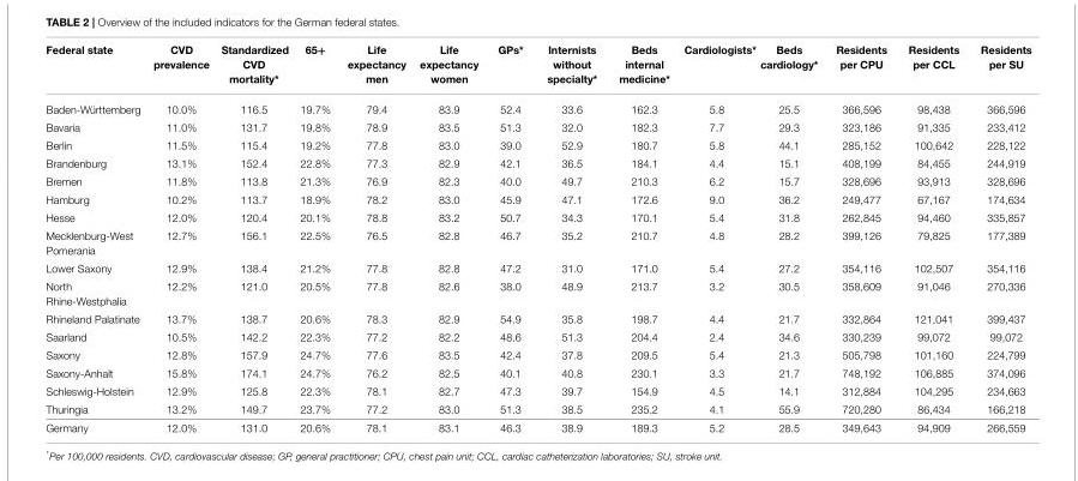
<table><thead><tr><td>Federal state</td><td>CVD prevalence</td><td>Standardized CVD mortality*</td><td>65+</td><td>Life expectancy men</td><td>Life expectancy women</td><td>GPs*</td><td>Internists without specialty*</td><td>Beds internal medicine*</td><td>Cardiologists*</td><td>Beds cardiology*</td><td>Residents per CPU</td><td>Residents per CCL</td><td>Residents per SU</td></tr></thead><tbody><tr><td>Baden-Württemberg</td><td>10.0%</td><td>116.5</td><td>19.7%</td><td>79.4</td><td>83.9</td><td>52.4</td><td>33.6</td><td>162.3</td><td>5.8</td><td>25.5</td><td>366,596</td><td>98,438</td><td>366,596</td></tr><tr><td>Bavaria</td><td>11.0%</td><td>131.7</td><td>19.8%</td><td>78.9</td><td>83.5</td><td>51.3</td><td>32.0</td><td>182.3</td><td>7.7</td><td>29.3</td><td>323,186</td><td>91,335</td><td>233,412</td></tr><tr><td>Berlin</td><td>11.5%</td><td>115.4</td><td>19.2%</td><td>77.8</td><td>83.0</td><td>39.0</td><td>52.9</td><td>180.7</td><td>5.8</td><td>44.1</td><td>285,152</td><td>100,642</td><td>228,122</td></tr><tr><td>Brandenburg</td><td>13.1%</td><td>152.4</td><td>22.8%</td><td>77.3</td><td>82.9</td><td>42.1</td><td>36.5</td><td>184.1</td><td>4.4</td><td>15.1</td><td>408,199</td><td>84,455</td><td>244,919</td></tr><tr><td>Bremen</td><td>11.8%</td><td>113.8</td><td>21.3%</td><td>76.9</td><td>82.3</td><td>40.0</td><td>49.7</td><td>210.3</td><td>6.2</td><td>15.7</td><td>328,696</td><td>93,913</td><td>328,696</td></tr><tr><td>Hamburg</td><td>10.2%</td><td>113.7</td><td>18.9%</td><td>78.2</td><td>83.0</td><td>45.9</td><td>47.1</td><td>172.6</td><td>9.0</td><td>36.2</td><td>249,477</td><td>67,167</td><td>174,634</td></tr><tr><td>Hesse</td><td>12.0%</td><td>120.4</td><td>20.1%</td><td>78.8</td><td>83.2</td><td>50.7</td><td>34.3</td><td>170.1</td><td>5.4</td><td>31.8</td><td>262,845</td><td>94,460</td><td>335,857</td></tr><tr><td>Mecklenburg-West Pomerania</td><td>12.7%</td><td>156.1</td><td>22.5%</td><td>76.5</td><td>82.8</td><td>46.7</td><td>35.2</td><td>210.7</td><td>4.8</td><td>28.2</td><td>399,126</td><td>79,825</td><td>177,389</td></tr><tr><td>Lower Saxony</td><td>12.9%</td><td>138.4</td><td>21.2%</td><td>77.8</td><td>82.8</td><td>47.2</td><td>31.0</td><td>171.0</td><td>5.4</td><td>27.2</td><td>354,116</td><td>102,507</td><td>354,116</td></tr><tr><td>North Rhine-Westphalia</td><td>12.2%</td><td>121.0</td><td>20.5%</td><td>77.8</td><td>82.6</td><td>38.0</td><td>48.9</td><td>213.7</td><td>3.2</td><td>30.5</td><td>358,609</td><td>91,046</td><td>270,336</td></tr><tr><td>Rhineland Palatinate</td><td>13.7%</td><td>138.7</td><td>20.6%</td><td>78.3</td><td>82.9</td><td>54.9</td><td>35.8</td><td>198.7</td><td>4.4</td><td>21.7</td><td>332,864</td><td>121,041</td><td>399,437</td></tr><tr><td>Saarland</td><td>10.5%</td><td>142.2</td><td>22.3%</td><td>77.2</td><td>82.2</td><td>48.6</td><td>51.3</td><td>204.4</td><td>2.4</td><td>34.6</td><td>330,239</td><td>99,072</td><td>99,072</td></tr><tr><td>Saxony</td><td>12.8%</td><td>157.9</td><td>24.7%</td><td>77.6</td><td>83.5</td><td>42.4</td><td>37.8</td><td>209.5</td><td>5.4</td><td>21.3</td><td>505,798</td><td>101,160</td><td>224,799</td></tr><tr><td>Saxony-Anhalt</td><td>15.8%</td><td>174.1</td><td>24.7%</td><td>76.2</td><td>82.5</td><td>40.1</td><td>40.8</td><td>230.1</td><td>3.3</td><td>21.7</td><td>748,192</td><td>106,885</td><td>374,096</td></tr><tr><td>Schleswig-Holstein</td><td>12.9%</td><td>125.8</td><td>22.3%</td><td>78.1</td><td>82.7</td><td>47.3</td><td>39.7</td><td>154.9</td><td>4.5</td><td>14.1</td><td>312,884</td><td>104,295</td><td>234,663</td></tr><tr><td>Thuringia</td><td>13.2%</td><td>149.7</td><td>23.7%</td><td>77.2</td><td>83.0</td><td>51.3</td><td>38.5</td><td>235.2</td><td>4.1</td><td>55.9</td><td>720,280</td><td>86,434</td><td>166,218</td></tr><tr><td>Germany</td><td>12.0%</td><td>131.0</td><td>20.6%</td><td>78.1</td><td>83.1</td><td>46.3</td><td>38.9</td><td>189.3</td><td>5.2</td><td>28.5</td><td>349,643</td><td>94,909</td><td>266,559</td></tr></tbody></table>